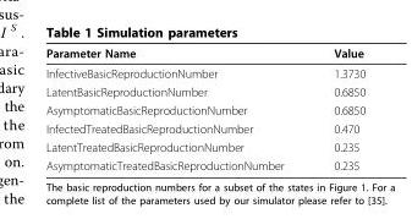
<table><thead><tr><td>Parameter Name</td><td>Value</td></tr></thead><tbody><tr><td>InfectiveBasicReproductionNumber</td><td>1.3730</td></tr><tr><td>LatentBasicReproductionNumber</td><td>0.6850</td></tr><tr><td>AsymptomaticBasicReproductionNumber</td><td>0.6850</td></tr><tr><td>InfectedTreatedBasicReproductionNumber</td><td>0.470</td></tr><tr><td>LatentTreatedBasicReproductionNumber</td><td>0.235</td></tr><tr><td>AsymptomaticTreatedBasicReproductionNumber</td><td>0.235</td></tr></tbody></table>